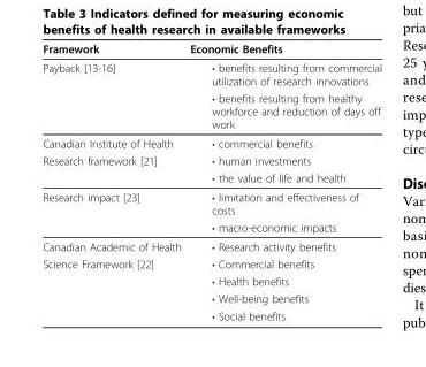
<table><thead><tr><td>Framework</td><td>Economic Benefits</td></tr></thead><tbody><tr><td rowspan="2">Payback [13-16]</td><td>• benefits resulting from commercial utilization of research innovations</td></tr><tr><td>• benefits resulting from healthy workforce and reduction of days off work</td></tr><tr><td rowspan="3">Canadian Institute of Health Research framework [21]</td><td>• commercial benefits</td></tr><tr><td>• human investments</td></tr><tr><td>• the value of life and health</td></tr><tr><td rowspan="2">Research impact [23]</td><td>• limitation and effectiveness of costs</td></tr><tr><td>• macro-economic impacts</td></tr><tr><td rowspan="5">Canadian Academic of Health Science Framework [22]</td><td>• Research activity benefits</td></tr><tr><td>• Commercial benefits</td></tr><tr><td>• Health benefits</td></tr><tr><td>• Well-being benefits</td></tr><tr><td>• Social benefits</td></tr></tbody></table>